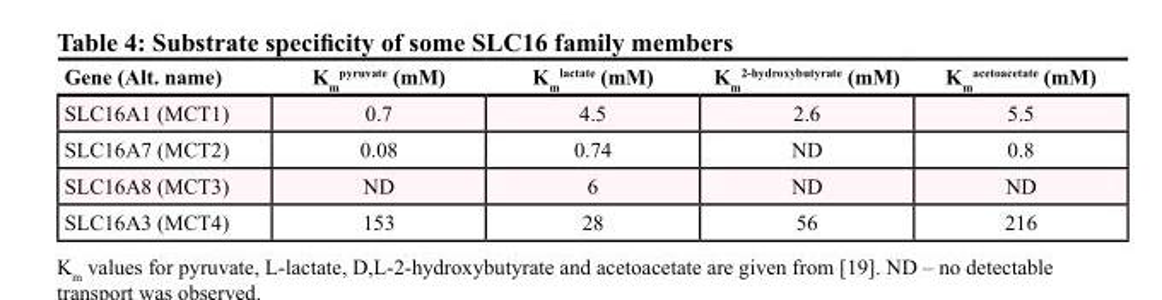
<table><thead><tr><td>Gene (Alt. name)</td><td>K<sub>m</sub> <sup>pyruvate</sup> (mM)</td><td>K<sub>m</sub> <sup>lactate</sup> (mM)</td><td>K<sub>m</sub> <sup>2-hydroxybutyrate</sup> (mM)</td><td>K<sub>m</sub> <sup>acetoacetate</sup> (mM)</td></tr></thead><tbody><tr><td>SLC16A1 (MCT1)</td><td>0.7</td><td>4.5</td><td>2.6</td><td>5.5</td></tr><tr><td>SLC16A7 (MCT2)</td><td>0.08</td><td>0.74</td><td>ND</td><td>0.8</td></tr><tr><td>SLC16A8 (MCT3)</td><td>ND</td><td>6</td><td>ND</td><td>ND</td></tr><tr><td>SLC16A3 (MCT4)</td><td>153</td><td>28</td><td>56</td><td>216</td></tr></tbody></table>